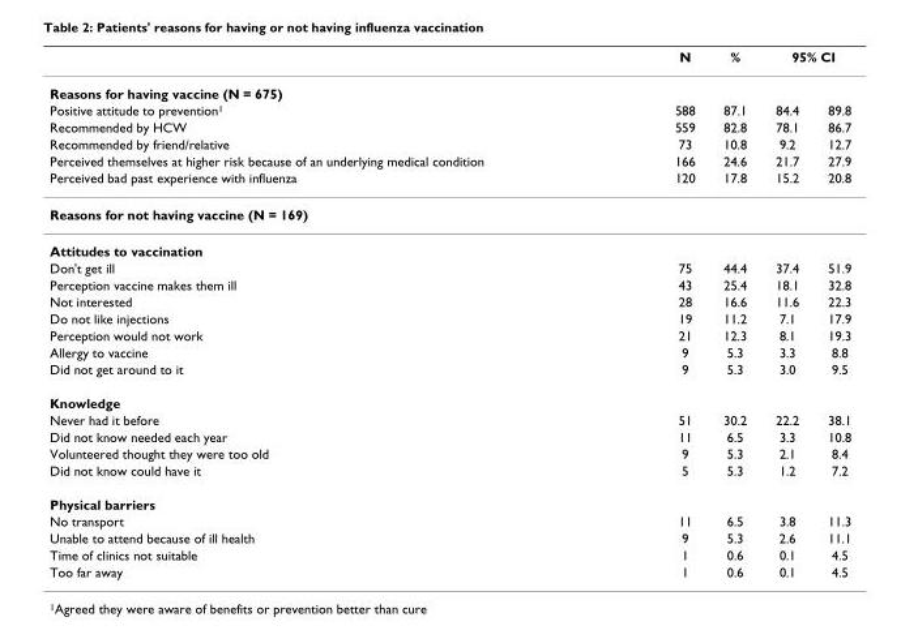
<table><thead><tr><td rowspan="2">Reasons for having vaccine (N = 675)</td><td rowspan="2">N</td><td rowspan="2">%</td><td colspan="2">95% CI</td></tr><tr><td></td><td></td></tr></thead><tbody><tr><td>Positive attitude to prevention1</td><td>588</td><td>87.1</td><td>84.4</td><td>89.8</td></tr><tr><td>Recommended by HCW</td><td>559</td><td>82.8</td><td>78.1</td><td>86.7</td></tr><tr><td>Recommended by friend/relative</td><td>73</td><td>10.8</td><td>9.2</td><td>12.7</td></tr><tr><td>Perceived themselves at higher risk because of an underlying medical condition</td><td>166</td><td>24.6</td><td>21.7</td><td>27.9</td></tr><tr><td>Perceived bad past experience with influenza</td><td>120</td><td>17.8</td><td>15.2</td><td>20.8</td></tr><tr><td colspan="5">Reasons for not having vaccine (N = 169)</td></tr><tr><td colspan="5">Attitudes to vaccination</td></tr><tr><td>Don&#x27;t get ill</td><td>75</td><td>44.4</td><td>37.4</td><td>51.9</td></tr><tr><td>Perception vaccine makes them ill</td><td>43</td><td>25.4</td><td>18.1</td><td>32.8</td></tr><tr><td>Not interested</td><td>28</td><td>16.6</td><td>11.6</td><td>22.3</td></tr><tr><td>Do not like injections</td><td>19</td><td>11.2</td><td>7.1</td><td>17.9</td></tr><tr><td>Perception would not work</td><td>21</td><td>12.3</td><td>8.1</td><td>19.3</td></tr><tr><td>Allergy to vaccine</td><td>9</td><td>5.3</td><td>3.3</td><td>8.8</td></tr><tr><td>Did not get around to it</td><td>9</td><td>5.3</td><td>3.0</td><td>9.5</td></tr><tr><td colspan="5">Knowledge</td></tr><tr><td>Never had it before</td><td>51</td><td>30.2</td><td>22.2</td><td>38.1</td></tr><tr><td>Did not know needed each year</td><td>11</td><td>6.5</td><td>3.3</td><td>10.8</td></tr><tr><td>Volunteered thought they were too old</td><td>9</td><td>5.3</td><td>2.1</td><td>8.4</td></tr><tr><td>Did not know could have it</td><td>5</td><td>5.3</td><td>1.2</td><td>7.2</td></tr><tr><td colspan="5">Physical barriers</td></tr><tr><td>No transport</td><td>11</td><td>6.5</td><td>3.8</td><td>11.3</td></tr><tr><td>Unable to attend because of ill health</td><td>9</td><td>5.3</td><td>2.6</td><td>11.1</td></tr><tr><td>Time of clinics not suitable</td><td>1</td><td>0.6</td><td>0.1</td><td>4.5</td></tr><tr><td>Too far away</td><td>1</td><td>0.6</td><td>0.1</td><td>4.5</td></tr></tbody></table>